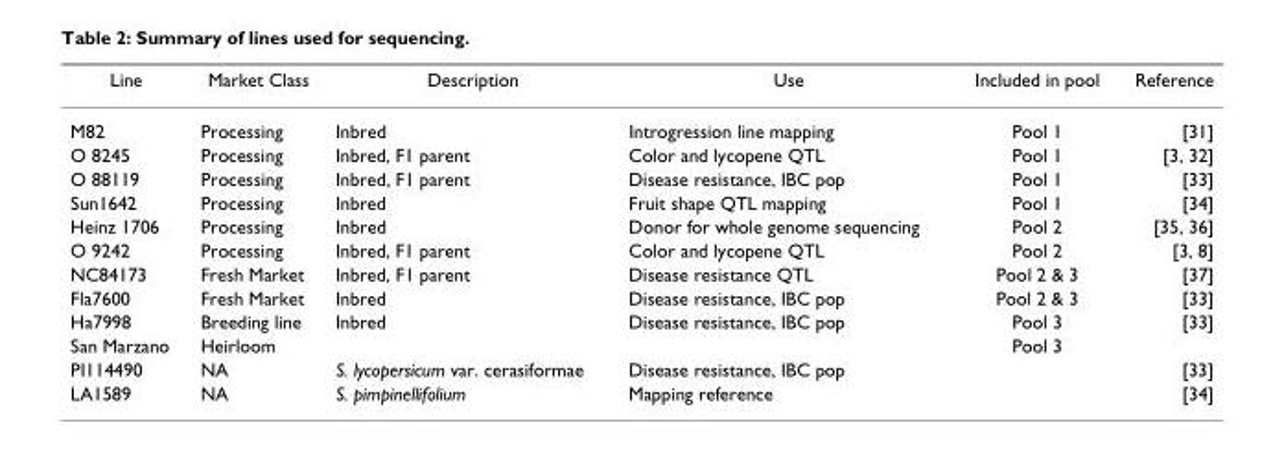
<table><thead><tr><td>Line</td><td>Market Class</td><td>Description</td><td>Use</td><td>Included in pool</td><td>Reference</td></tr></thead><tbody><tr><td>M82</td><td>Processing</td><td>Inbred</td><td>Introgression line mapping</td><td>Pool 1</td><td>[31]</td></tr><tr><td>O 8245</td><td>Processing</td><td>Inbred, F1 parent</td><td>Color and lycopene QTL</td><td>Pool 1</td><td>[3, 32]</td></tr><tr><td>O 88119</td><td>Processing</td><td>Inbred, F1 parent</td><td>Disease resistance, IBC pop</td><td>Pool 1</td><td>[33]</td></tr><tr><td>Sun1642</td><td>Processing</td><td>Inbred</td><td>Fruit shape QTL mapping</td><td>Pool 1</td><td>[34]</td></tr><tr><td>Heinz 1706</td><td>Processing</td><td>Inbred</td><td>Donor for whole genome sequencing</td><td>Pool 2</td><td>[35, 36]</td></tr><tr><td>O 9242</td><td>Processing</td><td>Inbred, F1 parent</td><td>Color and lycopene QTL</td><td>Pool 2</td><td>[3, 8]</td></tr><tr><td>NC84173</td><td>Fresh Market</td><td>Inbred, F1 parent</td><td>Disease resistance QTL</td><td>Pool 2 &amp; 3</td><td>[37]</td></tr><tr><td>Fla7600</td><td>Fresh Market</td><td>Inbred</td><td>Disease resistance, IBC pop</td><td>Pool 2 &amp; 3</td><td>[33]</td></tr><tr><td>Ha7998</td><td>Breeding line</td><td>Inbred</td><td>Disease resistance, IBC pop</td><td>Pool 3</td><td>[33]</td></tr><tr><td>San Marzano</td><td>Heirloom</td><td></td><td></td><td>Pool 3</td><td></td></tr><tr><td>PI114490</td><td>NA</td><td>S. lycopersicum var. cerasiformae</td><td>Disease resistance, IBC pop</td><td></td><td>[33]</td></tr><tr><td>LA1589</td><td>NA</td><td>S. pimpinellifolium</td><td>Mapping reference</td><td></td><td>[34]</td></tr></tbody></table>